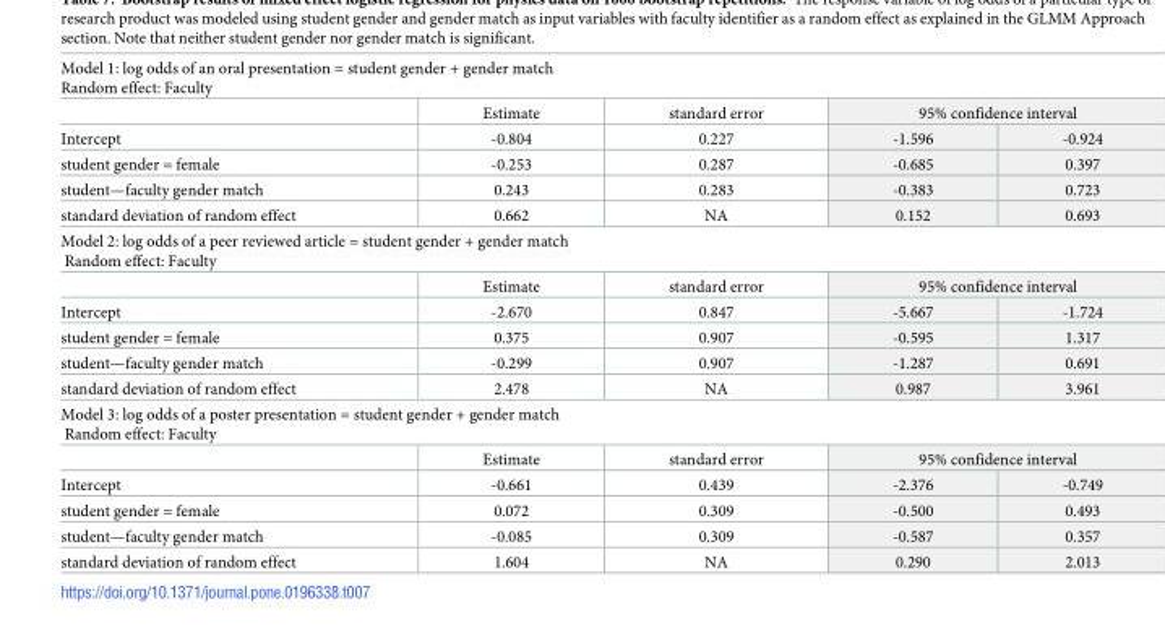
<table><tbody><tr><td colspan="5">Model 1: log odds of an oral presentation = student gender + gender match Random effect: Faculty</td></tr><tr><td></td><td>Estimate</td><td>standard error</td><td colspan="2">95% confidence interval</td></tr><tr><td>Intercept</td><td>-0.804</td><td>0.227</td><td>-1.596</td><td>-0.924</td></tr><tr><td>student gender = female</td><td>-0.253</td><td>0.287</td><td>-0.685</td><td>0.397</td></tr><tr><td>student—faculty gender match</td><td>0.243</td><td>0.283</td><td>-0.383</td><td>0.723</td></tr><tr><td>standard deviation of random effect</td><td>0.662</td><td>NA</td><td>0.152</td><td>0.693</td></tr><tr><td colspan="5">Model 2: log odds of a peer reviewed article = student gender + gender match Random effect: Faculty</td></tr><tr><td></td><td>Estimate</td><td>standard error</td><td colspan="2">95% confidence interval</td></tr><tr><td>Intercept</td><td>-2.670</td><td>0.847</td><td>-5.667</td><td>-1.724</td></tr><tr><td>student gender = female</td><td>0.375</td><td>0.907</td><td>-0.595</td><td>1.317</td></tr><tr><td>student—faculty gender match</td><td>-0.299</td><td>0.907</td><td>-1.287</td><td>0.691</td></tr><tr><td>standard deviation of random effect</td><td>2.478</td><td>NA</td><td>0.987</td><td>3.961</td></tr><tr><td colspan="5">Model 3: log odds of a poster presentation = student gender + gender match Random effect: Faculty</td></tr><tr><td></td><td>Estimate</td><td>standard error</td><td colspan="2">95% confidence interval</td></tr><tr><td>Intercept</td><td>-0.661</td><td>0.439</td><td>-2.376</td><td>-0.749</td></tr><tr><td>student gender = female</td><td>0.072</td><td>0.309</td><td>-0.500</td><td>0.493</td></tr><tr><td>student—faculty gender match</td><td>-0.085</td><td>0.309</td><td>-0.587</td><td>0.357</td></tr><tr><td>standard deviation of random effect</td><td>1.604</td><td>NA</td><td>0.290</td><td>2.013</td></tr></tbody></table>